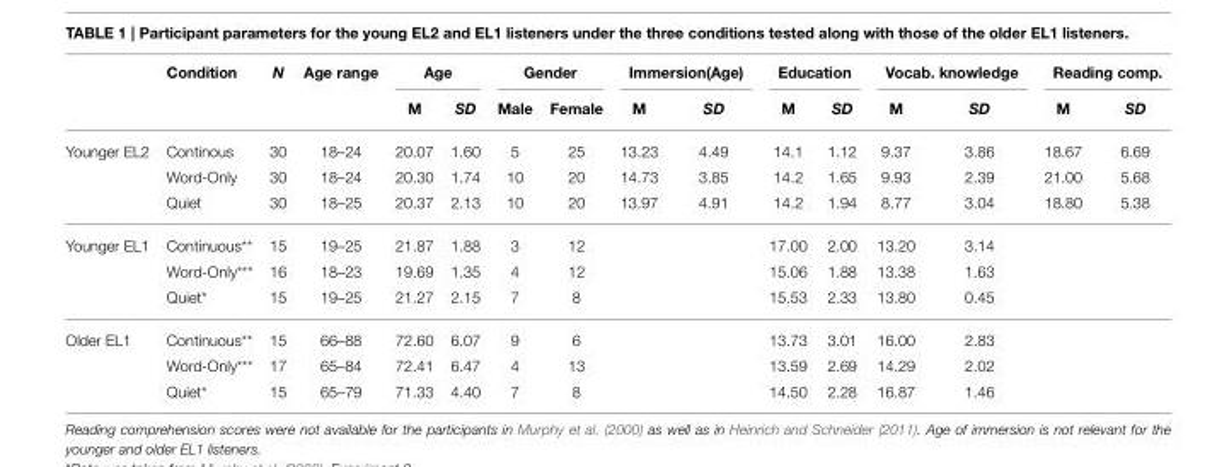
<table><thead><tr><td rowspan="2"></td><td rowspan="2">Condition</td><td rowspan="2">N</td><td rowspan="2">Age range</td><td colspan="2">Age</td><td colspan="2">Gender</td><td colspan="2">Immersion(Age)</td><td colspan="2">Education</td><td colspan="2">Vocab. knowledge</td><td colspan="2">Reading comp.</td></tr><tr><td>M</td><td>SD</td><td>Male</td><td>Female</td><td>M</td><td>SD</td><td>M</td><td>SD</td><td>M</td><td>SD</td><td>M</td><td>SD</td></tr></thead><tbody><tr><td rowspan="3">Younger EL2</td><td>Continous</td><td>30</td><td>18–24</td><td>20.07</td><td>1.60</td><td>5</td><td>25</td><td>13.23</td><td>4.49</td><td>14.1</td><td>1.12</td><td>9.37</td><td>3.86</td><td>18.67</td><td>6.69</td></tr><tr><td>Word-Only</td><td>30</td><td>18–24</td><td>20.30</td><td>1.74</td><td>10</td><td>20</td><td>14.73</td><td>3.85</td><td>14.2</td><td>1.65</td><td>9.93</td><td>2.39</td><td>21.00</td><td>5.68</td></tr><tr><td>Quiet</td><td>30</td><td>18–25</td><td>20.37</td><td>2.13</td><td>10</td><td>20</td><td>13.97</td><td>4.91</td><td>14.2</td><td>1.94</td><td>8.77</td><td>3.04</td><td>18.80</td><td>5.38</td></tr><tr><td rowspan="3">Younger EL1</td><td>Continuous**</td><td>15</td><td>19–25</td><td>21.87</td><td>1.88</td><td>3</td><td>12</td><td></td><td></td><td>17.00</td><td>2.00</td><td>13.20</td><td>3.14</td><td></td><td></td></tr><tr><td>Word-Only***</td><td>16</td><td>18–23</td><td>19.69</td><td>1.35</td><td>4</td><td>12</td><td></td><td></td><td>15.06</td><td>1.88</td><td>13.38</td><td>1.63</td><td></td><td></td></tr><tr><td>Quiet*</td><td>15</td><td>19–25</td><td>21.27</td><td>2.15</td><td>7</td><td>8</td><td></td><td></td><td>15.53</td><td>2.33</td><td>13.80</td><td>0.45</td><td></td><td></td></tr><tr><td rowspan="3">Older EL1</td><td>Continuous**</td><td>15</td><td>66–88</td><td>72.60</td><td>6.07</td><td>9</td><td>6</td><td></td><td></td><td>13.73</td><td>3.01</td><td>16.00</td><td>2.83</td><td></td><td></td></tr><tr><td>Word-Only***</td><td>17</td><td>65–84</td><td>72.41</td><td>6.47</td><td>4</td><td>13</td><td></td><td></td><td>13.59</td><td>2.69</td><td>14.29</td><td>2.02</td><td></td><td></td></tr><tr><td>Quiet*</td><td>15</td><td>65–79</td><td>71.33</td><td>4.40</td><td>7</td><td>8</td><td></td><td></td><td>14.50</td><td>2.28</td><td>16.87</td><td>1.46</td><td></td><td></td></tr></tbody></table>